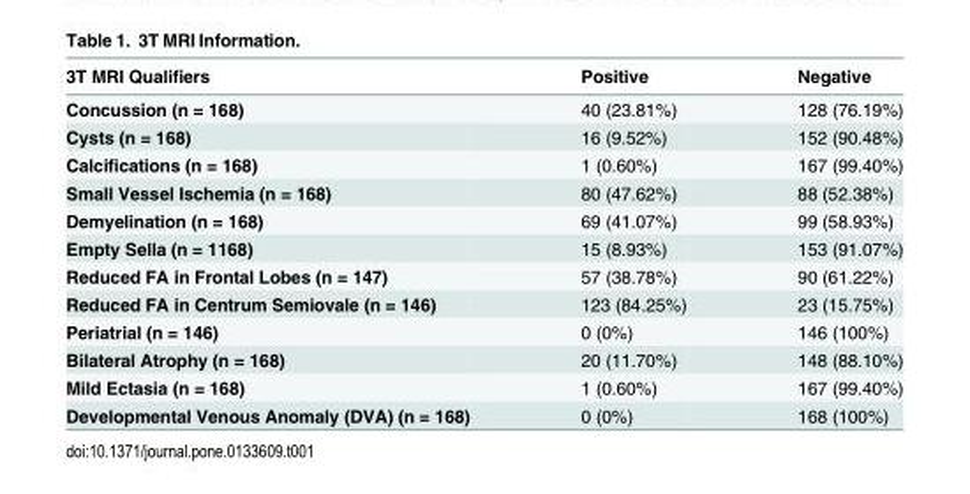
<table><thead><tr><td>3T MRI Qualifiers</td><td>Positive</td><td>Negative</td></tr></thead><tbody><tr><td>Concussion (n = 168)</td><td>40 (23.81%)</td><td>128 (76.19%)</td></tr><tr><td>Cysts (n = 168)</td><td>16 (9.52%)</td><td>152 (90.48%)</td></tr><tr><td>Calcifications (n = 168)</td><td>1 (0.60%)</td><td>167 (99.40%)</td></tr><tr><td>Small Vessel Ischemia (n = 168)</td><td>80 (47.62%)</td><td>88 (52.38%)</td></tr><tr><td>Demyelination (n = 168)</td><td>69 (41.07%)</td><td>99 (58.93%)</td></tr><tr><td>Empty Sella (n = 1168)</td><td>15 (8.93%)</td><td>153 (91.07%)</td></tr><tr><td>Reduced FA in Frontal Lobes (n = 147)</td><td>57 (38.78%)</td><td>90 (61.22%)</td></tr><tr><td>Reduced FA in Centrum Semiovale (n = 146)</td><td>123 (84.25%)</td><td>23 (15.75%)</td></tr><tr><td>Periatrial (n = 146)</td><td>0 (0%)</td><td>146 (100%)</td></tr><tr><td>Bilateral Atrophy (n = 168)</td><td>20 (11.70%)</td><td>148 (88.10%)</td></tr><tr><td>Mild Ectasia (n = 168)</td><td>1 (0.60%)</td><td>167 (99.40%)</td></tr><tr><td>Developmental Venous Anomaly (DVA) (n = 168)</td><td>0 (0%)</td><td>168 (100%)</td></tr></tbody></table>